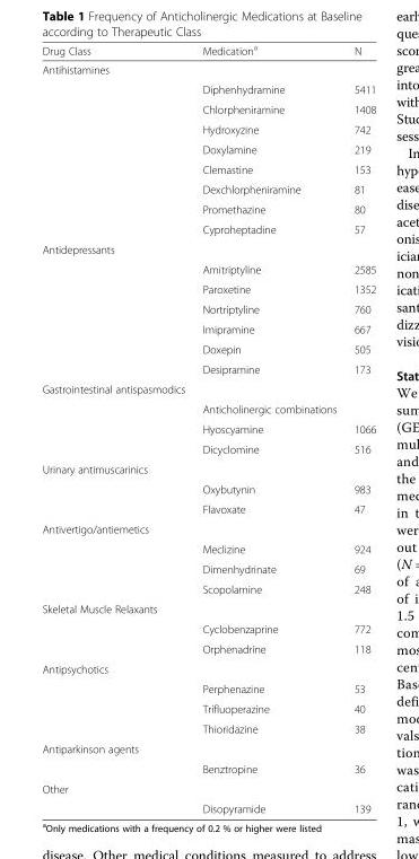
<table><thead><tr><td>Drug Class</td><td>Medication<sup>a</sup></td><td>N</td></tr></thead><tbody><tr><td colspan="3">Antihistamines</td></tr><tr><td></td><td>Diphenhydramine</td><td>5411</td></tr><tr><td></td><td>Chlorpheniramine</td><td>1408</td></tr><tr><td></td><td>Hydroxyzine</td><td>742</td></tr><tr><td></td><td>Doxylamine</td><td>219</td></tr><tr><td></td><td>Clemastine</td><td>153</td></tr><tr><td></td><td>Dexchlorpheniramine</td><td>81</td></tr><tr><td></td><td>Promethazine</td><td>80</td></tr><tr><td></td><td>Cyproheptadine</td><td>57</td></tr><tr><td colspan="3">Antidepressants</td></tr><tr><td></td><td>Amitriptyline</td><td>2585</td></tr><tr><td></td><td>Paroxetine</td><td>1352</td></tr><tr><td></td><td>Nortriptyline</td><td>760</td></tr><tr><td></td><td>Imipramine</td><td>667</td></tr><tr><td></td><td>Doxepin</td><td>505</td></tr><tr><td></td><td>Desipramine</td><td>173</td></tr><tr><td colspan="3">Gastrointestinal antispasmodics</td></tr><tr><td></td><td>Anticholinergic combinations</td><td></td></tr><tr><td></td><td>Hyoscyamine</td><td>1066</td></tr><tr><td></td><td>Dicyclomine</td><td>516</td></tr><tr><td colspan="3">Urinary antimuscarinics</td></tr><tr><td></td><td>Oxybutynin</td><td>983</td></tr><tr><td></td><td>Flavoxate</td><td>47</td></tr><tr><td colspan="3">Antivertigo/antiemetics</td></tr><tr><td></td><td>Meclizine</td><td>924</td></tr><tr><td></td><td>Dimenhydrinate</td><td>69</td></tr><tr><td></td><td>Scopolamine</td><td>248</td></tr><tr><td colspan="3">Skeletal Muscle Relaxants</td></tr><tr><td></td><td>Cyclobenzaprine</td><td>772</td></tr><tr><td></td><td>Orphenadrine</td><td>118</td></tr><tr><td colspan="3">Antipsychotics</td></tr><tr><td></td><td>Perphenazine</td><td>53</td></tr><tr><td></td><td>Trifluoperazine</td><td>40</td></tr><tr><td></td><td>Thioridazine</td><td>38</td></tr><tr><td colspan="3">Antiparkinson agents</td></tr><tr><td></td><td>Benztropine</td><td>36</td></tr><tr><td colspan="3">Other</td></tr><tr><td></td><td>Disopyramide</td><td>139</td></tr></tbody></table>